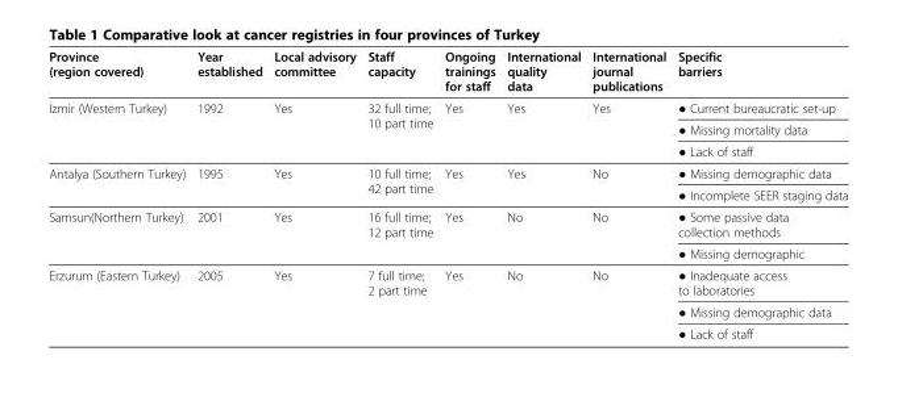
<table><thead><tr><td>Province (region covered)</td><td>Year established</td><td>Local advisory committee</td><td>Staff capacity</td><td>Ongoing trainings for staff</td><td>International quality data</td><td>International journal publications</td><td>Specific barriers</td></tr></thead><tbody><tr><td rowspan="3">Izmir (Western Turkey)</td><td rowspan="3">1992</td><td rowspan="3">Yes</td><td rowspan="3">32 full time; 10 part time</td><td rowspan="3">Yes</td><td rowspan="3">Yes</td><td rowspan="3">Yes</td><td>● Current bureaucratic set-up</td></tr><tr><td>● Missing mortality data</td></tr><tr><td>● Lack of staff</td></tr><tr><td rowspan="2">Antalya (Southern Turkey)</td><td rowspan="2">1995</td><td rowspan="2">Yes</td><td rowspan="2">10 full time; 42 part time</td><td rowspan="2">Yes</td><td rowspan="2">Yes</td><td rowspan="2">No</td><td>● Missing demographic data</td></tr><tr><td>● Incomplete SEER staging data</td></tr><tr><td rowspan="2">Samsun(Northern Turkey)</td><td rowspan="2">2001</td><td rowspan="2">Yes</td><td rowspan="2">16 full time; 12 part time</td><td rowspan="2">Yes</td><td rowspan="2">No</td><td rowspan="2">No</td><td>● Some passive data collection methods</td></tr><tr><td>● Missing demographic</td></tr><tr><td rowspan="3">Erzurum (Eastern Turkey)</td><td rowspan="3">2005</td><td rowspan="3">Yes</td><td rowspan="3">7 full time; 2 part time</td><td rowspan="3">Yes</td><td rowspan="3">No</td><td rowspan="3">No</td><td>● Inadequate access to laboratories</td></tr><tr><td>● Missing demographic data</td></tr><tr><td>● Lack of staff</td></tr></tbody></table>